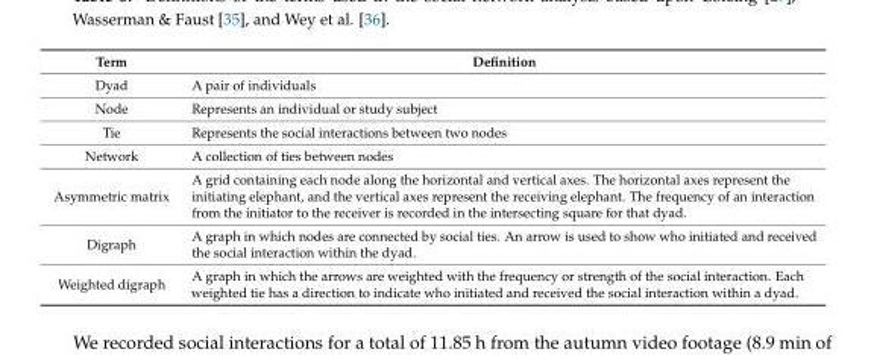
<table><thead><tr><td>Term</td><td>Definition</td></tr></thead><tbody><tr><td>Dyad</td><td>A pair of individuals</td></tr><tr><td>Node</td><td>Represents an individual or study subject</td></tr><tr><td>Tie</td><td>Represents the social interactions between two nodes</td></tr><tr><td>Network</td><td>A collection of ties between nodes</td></tr><tr><td>Asymmetric matrix</td><td>A grid containing each node along the horizontal and vertical axes. The horizontal axes represent the initiating elephant, and the vertical axes represent the receiving elephant. The frequency of an interaction from the initiator to the receiver is recorded in the intersecting square for that dyad.</td></tr><tr><td>Digraph</td><td>A graph in which nodes are connected by social ties. An arrow is used to show who initiated and received the social interaction within the dyad.</td></tr><tr><td>Weighted digraph</td><td>A graph in which the arrows are weighted with the frequency or strength of the social interaction. Each weighted tie has a direction to indicate who initiated and received the social interaction within a dyad.</td></tr></tbody></table>